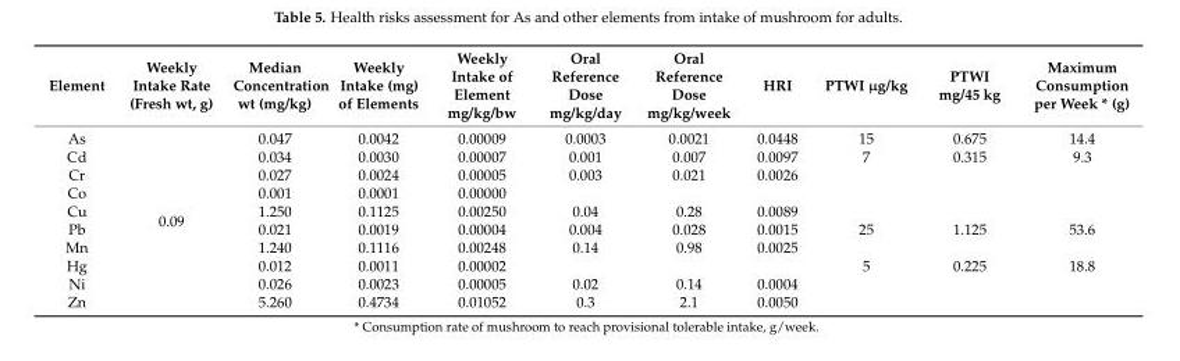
<table><thead><tr><td>Element</td><td>Weekly Intake Rate (Fresh wt, g)</td><td>Median Concentration wt (mg/kg)</td><td>Weekly Intake (mg) of Elements</td><td>Weekly Intake of Element mg/kg/bw</td><td>Oral Reference Dose mg/kg/day</td><td>Oral Reference Dose mg/kg/week</td><td>HRI</td><td>PTWI µg/kg</td><td>PTWI mg/45 kg</td><td>Maximum Consumption per Week * (g)</td></tr></thead><tbody><tr><td>As</td><td rowspan="10">0.09</td><td>0.047</td><td>0.0042</td><td>0.00009</td><td>0.0003</td><td>0.0021</td><td>0.0448</td><td>15</td><td>0.675</td><td>14.4</td></tr><tr><td>Cd</td><td>0.034</td><td>0.0030</td><td>0.00007</td><td>0.001</td><td>0.007</td><td>0.0097</td><td>7</td><td>0.315</td><td>9.3</td></tr><tr><td>Cr</td><td>0.027</td><td>0.0024</td><td>0.00005</td><td>0.003</td><td>0.021</td><td>0.0026</td><td></td><td></td><td></td></tr><tr><td>Co</td><td>0.001</td><td>0.0001</td><td>0.00000</td><td></td><td></td><td></td><td></td><td></td><td></td></tr><tr><td>Cu</td><td>1.250</td><td>0.1125</td><td>0.00250</td><td>0.04</td><td>0.28</td><td>0.0089</td><td></td><td></td><td></td></tr><tr><td>Pb</td><td>0.021</td><td>0.0019</td><td>0.00004</td><td>0.004</td><td>0.028</td><td>0.0015</td><td>25</td><td>1.125</td><td>53.6</td></tr><tr><td>Mn</td><td>1.240</td><td>0.1116</td><td>0.00248</td><td>0.14</td><td>0.98</td><td>0.0025</td><td></td><td></td><td></td></tr><tr><td>Hg</td><td>0.012</td><td>0.0011</td><td>0.00002</td><td></td><td></td><td></td><td>5</td><td>0.225</td><td>18.8</td></tr><tr><td>Ni</td><td>0.026</td><td>0.0023</td><td>0.00005</td><td>0.02</td><td>0.14</td><td>0.0004</td><td></td><td></td><td></td></tr><tr><td>Zn</td><td>5.260</td><td>0.4734</td><td>0.01052</td><td>0.3</td><td>2.1</td><td>0.0050</td><td></td><td></td><td></td></tr></tbody></table>